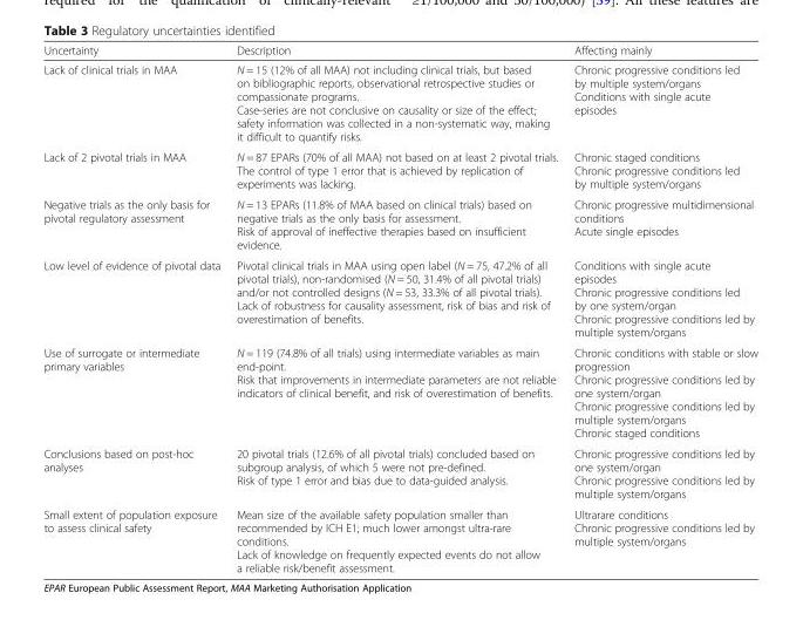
<table><thead><tr><td>Uncertainty</td><td>Description</td><td>Affecting mainly</td></tr></thead><tbody><tr><td>Lack of clinical trials in MAA</td><td>N = 15 (12% of all MAA) not including clinical trials, but based on bibliographic reports, observational retrospective studies or compassionate programs. Case-series are not conclusive on causality or size of the effect; safety information was collected in a non-systematic way, making it difficult to quantify risks.</td><td>Chronic progressive conditions led by multiple system/organs Conditions with single acute episodes</td></tr><tr><td>Lack of 2 pivotal trials in MAA</td><td>N = 87 EPARs (70% of all MAA) not based on at least 2 pivotal trials. The control of type 1 error that is achieved by replication of experiments was lacking.</td><td>Chronic staged conditions Chronic progressive conditions led by multiple system/organs</td></tr><tr><td>Negative trials as the only basis for pivotal regulatory assessment</td><td>N = 13 EPARs (11.8% of MAA based on clinical trials) based on negative trials as the only basis for assessment. Risk of approval of ineffective therapies based on insufficient evidence.</td><td>Chronic progressive multidimensional conditions Acute single episodes</td></tr><tr><td>Low level of evidence of pivotal data</td><td>Pivotal clinical trials in MAA using open label (N = 75, 47.2% of all pivotal trials), non-randomised (N = 50, 31.4% of all pivotal trials) and/or not controlled designs (N = 53, 33.3% of all pivotal trials). Lack of robustness for causality assessment, risk of bias and risk of overestimation of benefits.</td><td>Conditions with single acute episodes Chronic progressive conditions led by one system/organ Chronic progressive conditions led by multiple system/organs</td></tr><tr><td>Use of surrogate or intermediate primary variables</td><td>N = 119 (74.8% of all trials) using intermediate variables as main end-point. Risk that improvements in intermediate parameters are not reliable indicators of clinical benefit, and risk of overestimation of benefits.</td><td>Chronic conditions with stable or slow progression Chronic progressive conditions led by one system/organ Chronic progressive conditions led by multiple system/organs Chronic staged conditions</td></tr><tr><td>Conclusions based on post-hoc analyses</td><td>20 pivotal trials (12.6% of all pivotal trials) concluded based on subgroup analysis, of which 5 were not pre-defined. Risk of type 1 error and bias due to data-guided analysis.</td><td>Chronic progressive conditions led by one system/organ Chronic progressive conditions led by multiple system/organs</td></tr><tr><td>Small extent of population exposure to assess clinical safety</td><td>Mean size of the available safety population smaller than recommended by ICH E1; much lower amongst ultra-rare conditions. Lack of knowledge on frequently expected events do not allow a reliable risk/benefit assessment.</td><td>Ultrarare conditions Chronic progressive conditions led by multiple system/organs</td></tr></tbody></table>